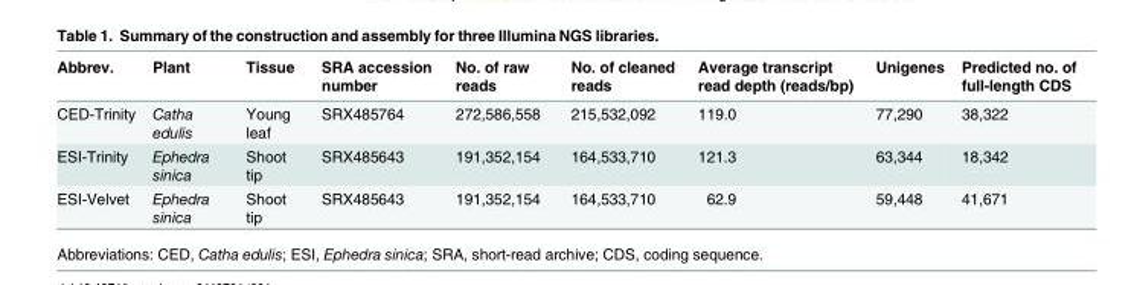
<table><thead><tr><td>Abbrev.</td><td>Plant</td><td>Tissue</td><td>SRA accession number</td><td>No. of raw reads</td><td>No. of cleaned reads</td><td>Average transcript read depth (reads/bp)</td><td>Unigenes</td><td>Predicted no. of full-length CDS</td></tr></thead><tbody><tr><td>CED-Trinity</td><td>Catha edulis</td><td>Young leaf</td><td>SRX485764</td><td>272,586,558</td><td>215,532,092</td><td>119.0</td><td>77,290</td><td>38,322</td></tr><tr><td>ESI-Trinity</td><td>Ephedra sinica</td><td>Shoot tip</td><td>SRX485643</td><td>191,352,154</td><td>164,533,710</td><td>121.3</td><td>63,344</td><td>18,342</td></tr><tr><td>ESI-Velvet</td><td>Ephedra sinica</td><td>Shoot tip</td><td>SRX485643</td><td>191,352,154</td><td>164,533,710</td><td>62.9</td><td>59,448</td><td>41,671</td></tr></tbody></table>